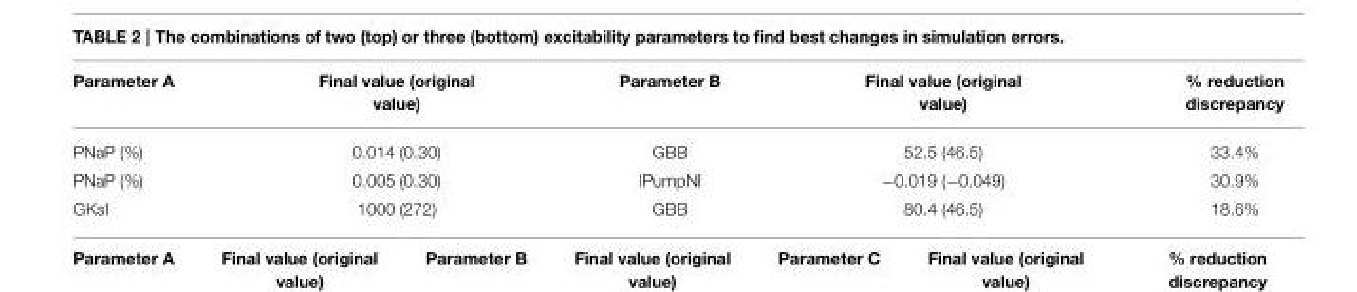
<table><thead><tr><td>Parameter A</td><td>Final value (original value)</td><td>Parameter B</td><td>Final value (original value)</td><td>% reduction discrepancy</td></tr></thead><tbody><tr><td>PNaP (%)</td><td>0.014 (0.30)</td><td>GBB</td><td>52.5 (46.5)</td><td>33.4%</td></tr><tr><td>PNaP (%)</td><td>0.005 (0.30)</td><td>IPumpNI</td><td>−0.019 (−0.049)</td><td>30.9%</td></tr><tr><td>GKsI</td><td>1000 (272)</td><td>GBB</td><td>80.4 (46.5)</td><td>18.6%</td></tr></tbody></table>